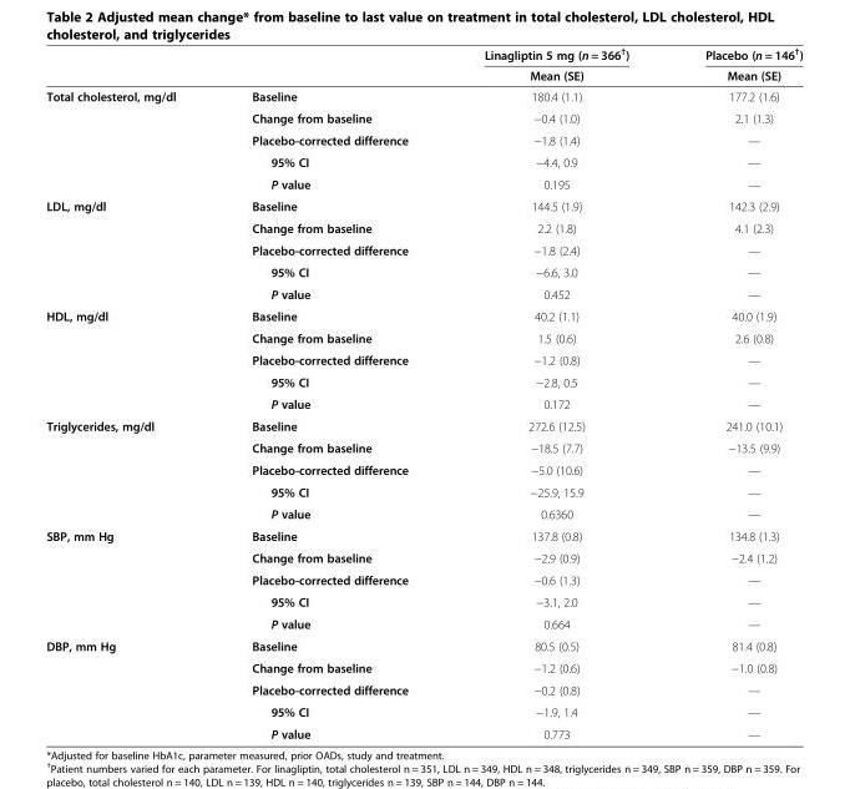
<table><thead><tr><td rowspan="2"></td><td rowspan="2"></td><td rowspan="2">Linagliptin 5 mg (n = 366<sup>†</sup>) Mean (SE)</td><td rowspan="2">Placebo (n = 146<sup>†</sup>) Mean (SE)</td></tr><tr></tr></thead><tbody><tr><td rowspan="5">Total cholesterol, mg/dl</td><td>Baseline</td><td>180.4 (1.1)</td><td>177.2 (1.6)</td></tr><tr><td>Change from baseline</td><td>−0.4 (1.0)</td><td>2.1 (1.3)</td></tr><tr><td>Placebo-corrected difference</td><td>−1.8 (1.4)</td><td>—</td></tr><tr><td>95% CI</td><td>−4.4, 0.9</td><td>—</td></tr><tr><td>P value</td><td>0.195</td><td>—</td></tr><tr><td rowspan="5">LDL, mg/dl</td><td>Baseline</td><td>144.5 (1.9)</td><td>142.3 (2.9)</td></tr><tr><td>Change from baseline</td><td>2.2 (1.8)</td><td>4.1 (2.3)</td></tr><tr><td>Placebo-corrected difference</td><td>−1.8 (2.4)</td><td>—</td></tr><tr><td>95% CI</td><td>−6.6, 3.0</td><td>—</td></tr><tr><td>P value</td><td>0.452</td><td>—</td></tr><tr><td rowspan="5">HDL, mg/dl</td><td>Baseline</td><td>40.2 (1.1)</td><td>40.0 (1.9)</td></tr><tr><td>Change from baseline</td><td>1.5 (0.6)</td><td>2.6 (0.8)</td></tr><tr><td>Placebo-corrected difference</td><td>−1.2 (0.8)</td><td>—</td></tr><tr><td>95% CI</td><td>−2.8, 0.5</td><td>—</td></tr><tr><td>P value</td><td>0.172</td><td>—</td></tr><tr><td rowspan="5">Triglycerides, mg/dl</td><td>Baseline</td><td>272.6 (12.5)</td><td>241.0 (10.1)</td></tr><tr><td>Change from baseline</td><td>−18.5 (7.7)</td><td>−13.5 (9.9)</td></tr><tr><td>Placebo-corrected difference</td><td>−5.0 (10.6)</td><td>—</td></tr><tr><td>95% CI</td><td>−25.9, 15.9</td><td>—</td></tr><tr><td>P value</td><td>0.6360</td><td>—</td></tr><tr><td rowspan="5">SBP, mm Hg</td><td>Baseline</td><td>137.8 (0.8)</td><td>134.8 (1.3)</td></tr><tr><td>Change from baseline</td><td>−2.9 (0.9)</td><td>−2.4 (1.2)</td></tr><tr><td>Placebo-corrected difference</td><td>−0.6 (1.3)</td><td>—</td></tr><tr><td>95% CI</td><td>−3.1, 2.0</td><td>—</td></tr><tr><td>P value</td><td>0.664</td><td>—</td></tr><tr><td rowspan="5">DBP, mm Hg</td><td>Baseline</td><td>80.5 (0.5)</td><td>81.4 (0.8)</td></tr><tr><td>Change from baseline</td><td>−1.2 (0.6)</td><td>−1.0 (0.8)</td></tr><tr><td>Placebo-corrected difference</td><td>−0.2 (0.8)</td><td>—</td></tr><tr><td>95% CI</td><td>−1.9, 1.4</td><td>—</td></tr><tr><td>P value</td><td>0.773</td><td>—</td></tr></tbody></table>